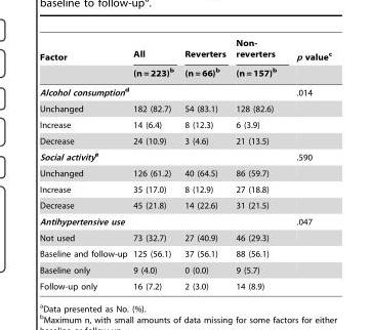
<table><thead><tr><td rowspan="2">Factor</td><td rowspan="2">All (n = 223)<sup>b</sup></td><td rowspan="2">Reverters (n = 66)<sup>b</sup></td><td rowspan="2">Non- reverters (n = 157)<sup>b</sup></td><td rowspan="2">p value<sup>c</sup></td></tr><tr></tr></thead><tbody><tr><td>Alcohol consumptiond</td><td></td><td></td><td></td><td>.014</td></tr><tr><td>Unchanged</td><td>182 (82.7)</td><td>54 (83.1)</td><td>128 (82.6)</td><td></td></tr><tr><td>Increase</td><td>14 (6.4)</td><td>8 (12.3)</td><td>6 (3.9)</td><td></td></tr><tr><td>Decrease</td><td>24 (10.9)</td><td>3 (4.6)</td><td>21 (13.5)</td><td></td></tr><tr><td>Social activitye</td><td></td><td></td><td></td><td>.590</td></tr><tr><td>Unchanged</td><td>126 (61.2)</td><td>40 (64.5)</td><td>86 (59.7)</td><td></td></tr><tr><td>Increase</td><td>35 (17.0)</td><td>8 (12.9)</td><td>27 (18.8)</td><td></td></tr><tr><td>Decrease</td><td>45 (21.8)</td><td>14 (22.6)</td><td>31 (21.5)</td><td></td></tr><tr><td>Antihypertensive use</td><td></td><td></td><td></td><td>.047</td></tr><tr><td>Not used</td><td>73 (32.7)</td><td>27 (40.9)</td><td>46 (29.3)</td><td></td></tr><tr><td>Baseline and follow-up</td><td>125 (56.1)</td><td>37 (56.1)</td><td>88 (56.1)</td><td></td></tr><tr><td>Baseline only</td><td>9 (4.0)</td><td>0 (0.0)</td><td>9 (5.7)</td><td></td></tr><tr><td>Follow-up only</td><td>16 (7.2)</td><td>2 (3.0)</td><td>14 (8.9)</td><td></td></tr></tbody></table>